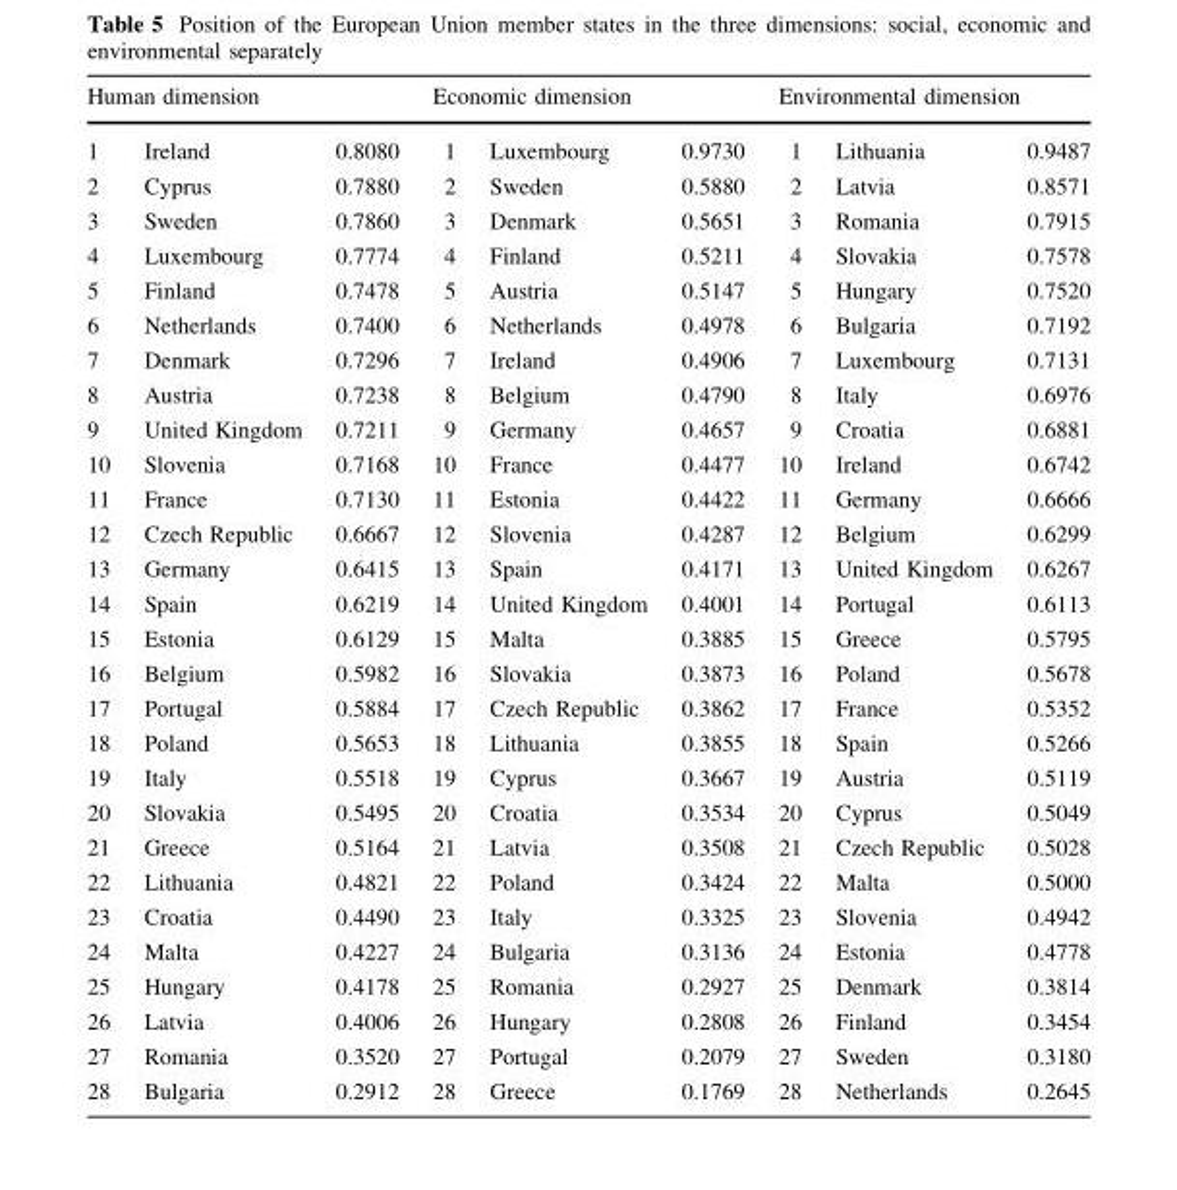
<table><thead><tr><td colspan="3">Human dimension</td><td colspan="3">Economic dimension</td><td colspan="3">Environmental dimension</td></tr><tr><td>1</td><td>Ireland</td><td>0.8080</td><td>1</td><td>Luxembourg</td><td>0.9730</td><td>1</td><td>Lithuania</td><td>0.9487</td></tr></thead><tbody><tr><td>2</td><td>Cyprus</td><td>0.7880</td><td>2</td><td>Sweden</td><td>0.5880</td><td>2</td><td>Latvia</td><td>0.8571</td></tr><tr><td>3</td><td>Sweden</td><td>0.7860</td><td>3</td><td>Denmark</td><td>0.5651</td><td>3</td><td>Romania</td><td>0.7915</td></tr><tr><td>4</td><td>Luxembourg</td><td>0.7774</td><td>4</td><td>Finland</td><td>0.5211</td><td>4</td><td>Slovakia</td><td>0.7578</td></tr><tr><td>5</td><td>Finland</td><td>0.7478</td><td>5</td><td>Austria</td><td>0.5147</td><td>5</td><td>Hungary</td><td>0.7520</td></tr><tr><td>6</td><td>Netherlands</td><td>0.7400</td><td>6</td><td>Netherlands</td><td>0.4978</td><td>6</td><td>Bulgaria</td><td>0.7192</td></tr><tr><td>7</td><td>Denmark</td><td>0.7296</td><td>7</td><td>Ireland</td><td>0.4906</td><td>7</td><td>Luxembourg</td><td>0.7131</td></tr><tr><td>8</td><td>Austria</td><td>0.7238</td><td>8</td><td>Belgium</td><td>0.4790</td><td>8</td><td>Italy</td><td>0.6976</td></tr><tr><td>9</td><td>United Kingdom</td><td>0.7211</td><td>9</td><td>Germany</td><td>0.4657</td><td>9</td><td>Croatia</td><td>0.6881</td></tr><tr><td>10</td><td>Slovenia</td><td>0.7168</td><td>10</td><td>France</td><td>0.4477</td><td>10</td><td>Ireland</td><td>0.6742</td></tr><tr><td>11</td><td>France</td><td>0.7130</td><td>11</td><td>Estonia</td><td>0.4422</td><td>11</td><td>Germany</td><td>0.6666</td></tr><tr><td>12</td><td>Czech Republic</td><td>0.6667</td><td>12</td><td>Slovenia</td><td>0.4287</td><td>12</td><td>Belgium</td><td>0.6299</td></tr><tr><td>13</td><td>Germany</td><td>0.6415</td><td>13</td><td>Spain</td><td>0.4171</td><td>13</td><td>United Kingdom</td><td>0.6267</td></tr><tr><td>14</td><td>Spain</td><td>0.6219</td><td>14</td><td>United Kingdom</td><td>0.4001</td><td>14</td><td>Portugal</td><td>0.6113</td></tr><tr><td>15</td><td>Estonia</td><td>0.6129</td><td>15</td><td>Malta</td><td>0.3885</td><td>15</td><td>Greece</td><td>0.5795</td></tr><tr><td>16</td><td>Belgium</td><td>0.5982</td><td>16</td><td>Slovakia</td><td>0.3873</td><td>16</td><td>Poland</td><td>0.5678</td></tr><tr><td>17</td><td>Portugal</td><td>0.5884</td><td>17</td><td>Czech Republic</td><td>0.3862</td><td>17</td><td>France</td><td>0.5352</td></tr><tr><td>18</td><td>Poland</td><td>0.5653</td><td>18</td><td>Lithuania</td><td>0.3855</td><td>18</td><td>Spain</td><td>0.5266</td></tr><tr><td>19</td><td>Italy</td><td>0.5518</td><td>19</td><td>Cyprus</td><td>0.3667</td><td>19</td><td>Austria</td><td>0.5119</td></tr><tr><td>20</td><td>Slovakia</td><td>0.5495</td><td>20</td><td>Croatia</td><td>0.3534</td><td>20</td><td>Cyprus</td><td>0.5049</td></tr><tr><td>21</td><td>Greece</td><td>0.5164</td><td>21</td><td>Latvia</td><td>0.3508</td><td>21</td><td>Czech Republic</td><td>0.5028</td></tr><tr><td>22</td><td>Lithuania</td><td>0.4821</td><td>22</td><td>Poland</td><td>0.3424</td><td>22</td><td>Malta</td><td>0.5000</td></tr><tr><td>23</td><td>Croatia</td><td>0.4490</td><td>23</td><td>Italy</td><td>0.3325</td><td>23</td><td>Slovenia</td><td>0.4942</td></tr><tr><td>24</td><td>Malta</td><td>0.4227</td><td>24</td><td>Bulgaria</td><td>0.3136</td><td>24</td><td>Estonia</td><td>0.4778</td></tr><tr><td>25</td><td>Hungary</td><td>0.4178</td><td>25</td><td>Romania</td><td>0.2927</td><td>25</td><td>Denmark</td><td>0.3814</td></tr><tr><td>26</td><td>Latvia</td><td>0.4006</td><td>26</td><td>Hungary</td><td>0.2808</td><td>26</td><td>Finland</td><td>0.3454</td></tr><tr><td>27</td><td>Romania</td><td>0.3520</td><td>27</td><td>Portugal</td><td>0.2079</td><td>27</td><td>Sweden</td><td>0.3180</td></tr><tr><td>28</td><td>Bulgaria</td><td>0.2912</td><td>28</td><td>Greece</td><td>0.1769</td><td>28</td><td>Netherlands</td><td>0.2645</td></tr></tbody></table>